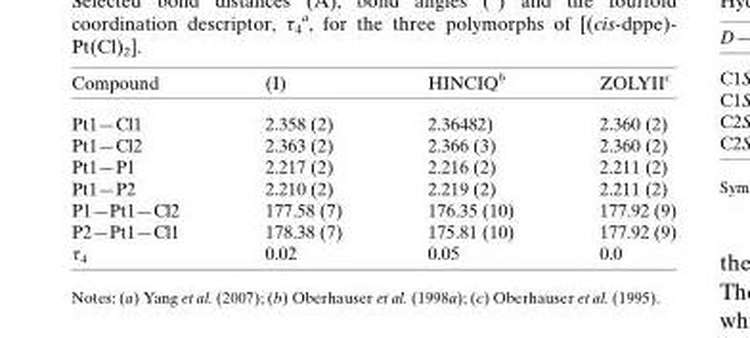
<table><thead><tr><td>Compound</td><td>(I)</td><td>HINCIQb</td><td>ZOLYIIc</td></tr></thead><tbody><tr><td>Pt1—Cl1</td><td>2.358 (2)</td><td>2.36482)</td><td>2.360 (2)</td></tr><tr><td>Pt1—Cl2</td><td>2.363 (2)</td><td>2.366 (3)</td><td>2.360 (2)</td></tr><tr><td>Pt1—P1</td><td>2.217 (2)</td><td>2.216 (2)</td><td>2.211 (2)</td></tr><tr><td>Pt1—P2</td><td>2.210 (2)</td><td>2.219 (2)</td><td>2.211 (2)</td></tr><tr><td>P1—Pt1—Cl2</td><td>177.58 (7)</td><td>176.35 (10)</td><td>177.92 (9)</td></tr><tr><td>P2—Pt1—Cl1</td><td>178.38 (7)</td><td>175.81 (10)</td><td>177.92 (9)</td></tr><tr><td>τ<sub>4</sub></td><td>0.02</td><td>0.05</td><td>0.0</td></tr></tbody></table>